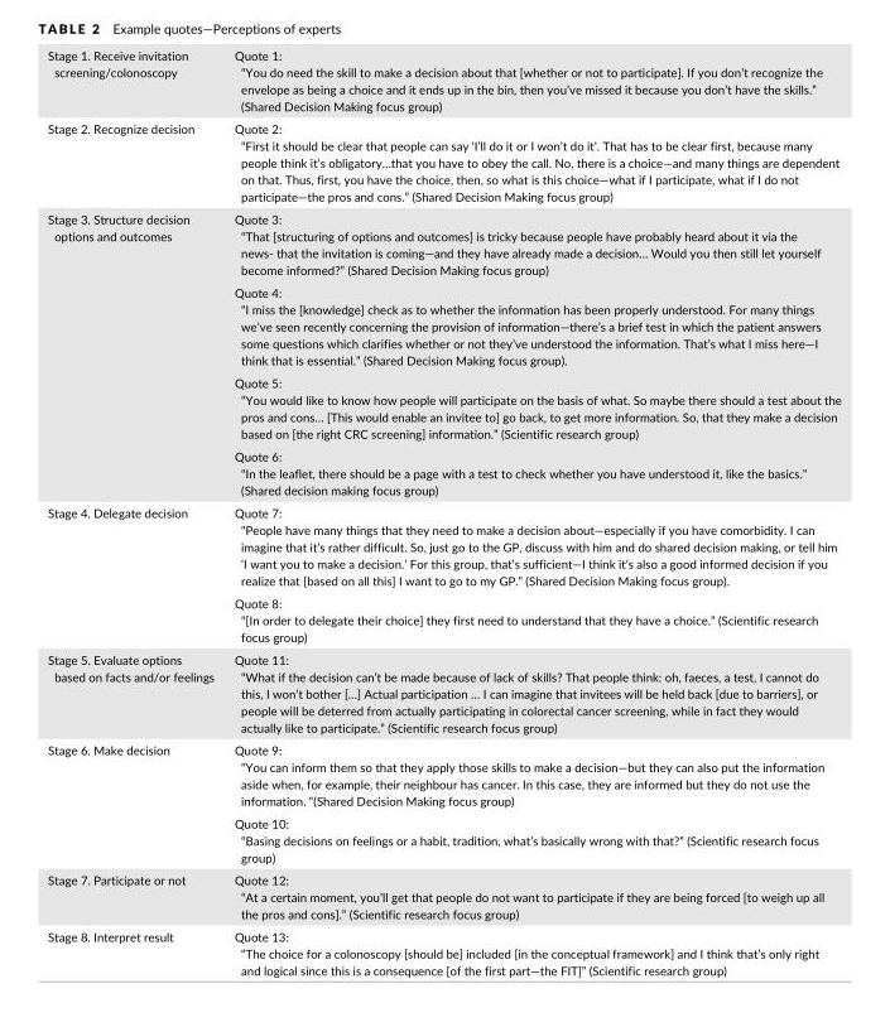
<table><tbody><tr><td>Stage 1. Receive invitation screening/colonoscopy</td><td>Quote 1: “You do need the skill to make a decision about that [whether or not to participate]. If you don’t recognize the envelope as being a choice and it ends up in the bin, then you’ve missed it because you don’t have the skills.” (Shared Decision Making focus group)</td></tr><tr><td>Stage 2. Recognize decision</td><td>Quote 2: “First it should be clear that people can say ‘I’ll do it or I won’t do it’. That has to be clear first, because many people think it’s obligatory…that you have to obey the call. No, there is a choice—and many things are dependent on that. Thus, first, you have the choice, then, so what is this choice—what if I participate, what if I do not participate—the pros and cons.” (Shared Decision Making focus group)</td></tr><tr><td rowspan="4">Stage 3. Structure decision options and outcomes</td><td>Quote 3: “That [structuring of options and outcomes] is tricky because people have probably heard about it via the news- that the invitation is coming—and they have already made a decision… Would you then still let yourself become informed?” (Shared Decision Making focus group)</td></tr><tr><td>Quote 4: “I miss the [knowledge] check as to whether the information has been properly understood. For many things we’ve seen recently concerning the provision of information—there’s a brief test in which the patient answers some questions which clarifies whether or not they’ve understood the information. That’s what I miss here—I think that is essential.” (Shared Decision Making focus group).</td></tr><tr><td>Quote 5: “You would like to know how people will participate on the basis of what. So maybe there should a test about the pros and cons… [This would enable an invitee to] go back, to get more information. So, that they make a decision based on [the right CRC screening] information.” (Scientific research group)</td></tr><tr><td>Quote 6: “In the leaflet, there should be a page with a test to check whether you have understood it, like the basics.” (Shared decision making focus group)</td></tr><tr><td rowspan="2">Stage 4. Delegate decision</td><td>Quote 7: “People have many things that they need to make a decision about—especially if you have comorbidity. I can imagine that it’s rather difficult. So, just go to the GP, discuss with him and do shared decision making, or tell him ‘I want you to make a decision.’ For this group, that’s sufficient—I think it’s also a good informed decision if you realize that [based on all this] I want to go to my GP.” (Shared Decision Making focus group).</td></tr><tr><td>Quote 8: “[In order to delegate their choice] they first need to understand that they have a choice.” (Scientific research focus group)</td></tr><tr><td>Stage 5. Evaluate options based on facts and/or feelings</td><td>Quote 11: “What if the decision can’t be made because of lack of skills? That people think: oh, faeces, a test, I cannot do this, I won’t bother […] Actual participation … I can imagine that invitees will be held back [due to barriers], or people will be deterred from actually participating in colorectal cancer screening, while in fact they would actually like to participate.” (Scientific research focus group)</td></tr><tr><td rowspan="2">Stage 6. Make decision</td><td>Quote 9: “You can inform them so that they apply those skills to make a decision—but they can also put the information aside when, for example, their neighbour has cancer. In this case, they are informed but they do not use the information. “(Shared Decision Making focus group)</td></tr><tr><td>Quote 10: “Basing decisions on feelings or a habit, tradition, what’s basically wrong with that?” (Scientific research focus group)</td></tr><tr><td>Stage 7. Participate or not</td><td>Quote 12: “At a certain moment, you’ll get that people do not want to participate if they are being forced [to weigh up all the pros and cons].” (Scientific research focus group)</td></tr><tr><td>Stage 8. Interpret result</td><td>Quote 13: “The choice for a colonoscopy [should be] included [in the conceptual framework] and I think that’s only right and logical since this is a consequence [of the first part—the FIT]” (Scientific research group)</td></tr></tbody></table>